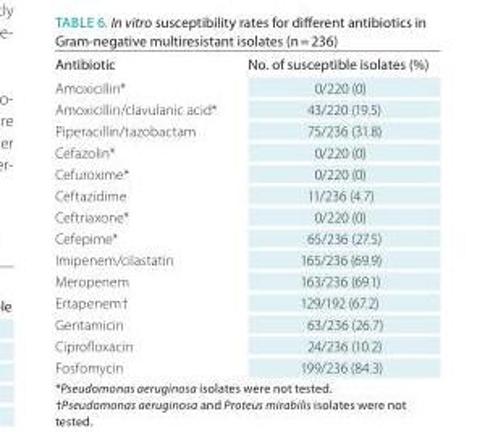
<table><thead><tr><td>Antibiotic</td><td>No. of susceptible isolates (%)</td></tr></thead><tbody><tr><td>Amoxicillin*</td><td>0/220 (0)</td></tr><tr><td>Amoxicillin/clavulanic acid*</td><td>43/220 (19.5)</td></tr><tr><td>Piperacillin/tazobactam</td><td>75/236 (31.8)</td></tr><tr><td>Cefazolin*</td><td>0/220 (0)</td></tr><tr><td>Cefuroxime*</td><td>0/220 (0)</td></tr><tr><td>Ceftazidime</td><td>11/236 (4.7)</td></tr><tr><td>Ceftriaxone*</td><td>0/220 (0)</td></tr><tr><td>Cefepime*</td><td>65/236 (27.5)</td></tr><tr><td>Imipenem/cilastatin</td><td>165/236 (69.9)</td></tr><tr><td>Meropenem</td><td>163/236 (69.1)</td></tr><tr><td>Ertapenem†</td><td>129/192 (67.2)</td></tr><tr><td>Gentamicin</td><td>63/236 (26.7)</td></tr><tr><td>Ciprofloxacin</td><td>24/236 (10.2)</td></tr><tr><td>Fosfomycin</td><td>199/236 (84.3)</td></tr></tbody></table>